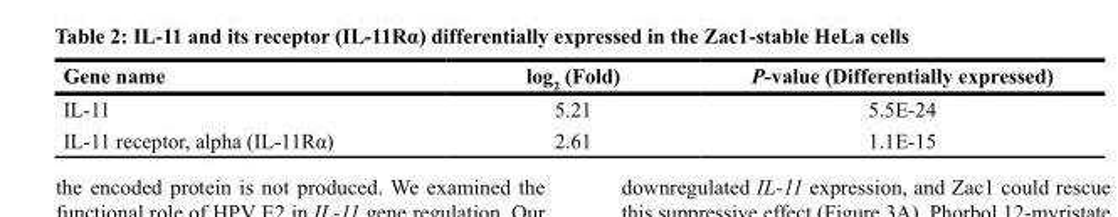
<table><thead><tr><td>Gene name</td><td>log<sub>2</sub> (Fold)</td><td>P-value (Differentially expressed)</td></tr></thead><tbody><tr><td>IL-11</td><td>5.21</td><td>5.5E-24</td></tr><tr><td>IL-11 receptor, alpha (IL-11Rα)</td><td>2.61</td><td>1.1E-15</td></tr></tbody></table>